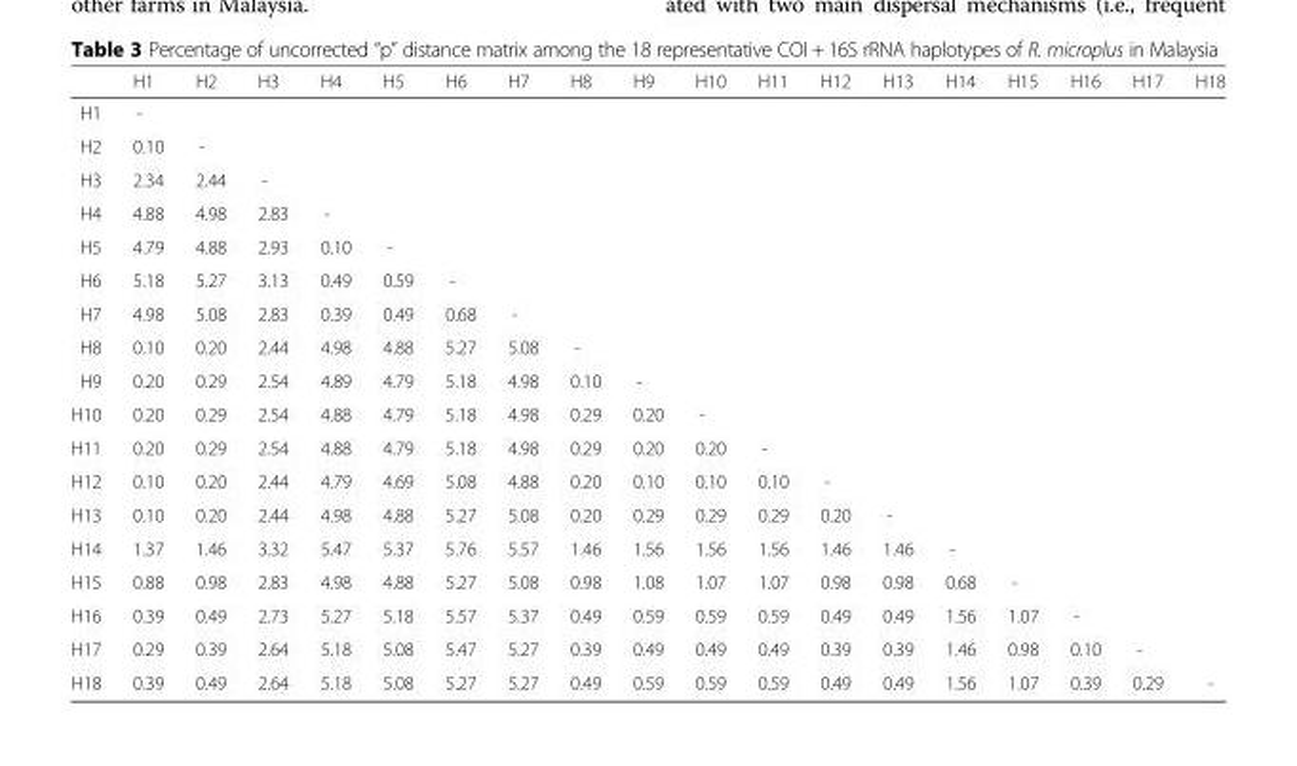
<table><thead><tr><td></td><td>H1</td><td>H2</td><td>H3</td><td>H4</td><td>H5</td><td>H6</td><td>H7</td><td>H8</td><td>H9</td><td>H10</td><td>H11</td><td>H12</td><td>H13</td><td>H14</td><td>H15</td><td>H16</td><td>H17</td><td>H18</td></tr></thead><tbody><tr><td>H1</td><td>-</td><td></td><td></td><td></td><td></td><td></td><td></td><td></td><td></td><td></td><td></td><td></td><td></td><td></td><td></td><td></td><td></td><td></td></tr><tr><td>H2</td><td>0.10</td><td>-</td><td></td><td></td><td></td><td></td><td></td><td></td><td></td><td></td><td></td><td></td><td></td><td></td><td></td><td></td><td></td><td></td></tr><tr><td>H3</td><td>2.34</td><td>2.44</td><td>-</td><td></td><td></td><td></td><td></td><td></td><td></td><td></td><td></td><td></td><td></td><td></td><td></td><td></td><td></td><td></td></tr><tr><td>H4</td><td>4.88</td><td>4.98</td><td>2.83</td><td>-</td><td></td><td></td><td></td><td></td><td></td><td></td><td></td><td></td><td></td><td></td><td></td><td></td><td></td><td></td></tr><tr><td>H5</td><td>4.79</td><td>4.88</td><td>2.93</td><td>0.10</td><td>-</td><td></td><td></td><td></td><td></td><td></td><td></td><td></td><td></td><td></td><td></td><td></td><td></td><td></td></tr><tr><td>H6</td><td>5.18</td><td>5.27</td><td>3.13</td><td>0.49</td><td>0.59</td><td>-</td><td></td><td></td><td></td><td></td><td></td><td></td><td></td><td></td><td></td><td></td><td></td><td></td></tr><tr><td>H7</td><td>4.98</td><td>5.08</td><td>2.83</td><td>0.39</td><td>0.49</td><td>0.68</td><td>-</td><td></td><td></td><td></td><td></td><td></td><td></td><td></td><td></td><td></td><td></td><td></td></tr><tr><td>H8</td><td>0.10</td><td>0.20</td><td>2.44</td><td>4.98</td><td>4.88</td><td>5.27</td><td>5.08</td><td>-</td><td></td><td></td><td></td><td></td><td></td><td></td><td></td><td></td><td></td><td></td></tr><tr><td>H9</td><td>0.20</td><td>0.29</td><td>2.54</td><td>4.89</td><td>4.79</td><td>5.18</td><td>4.98</td><td>0.10</td><td>-</td><td></td><td></td><td></td><td></td><td></td><td></td><td></td><td></td><td></td></tr><tr><td>H10</td><td>0.20</td><td>0.29</td><td>2.54</td><td>4.88</td><td>4.79</td><td>5.18</td><td>4.98</td><td>0.29</td><td>0.20</td><td>-</td><td></td><td></td><td></td><td></td><td></td><td></td><td></td><td></td></tr><tr><td>H11</td><td>0.20</td><td>0.29</td><td>2.54</td><td>4.88</td><td>4.79</td><td>5.18</td><td>4.98</td><td>0.29</td><td>0.20</td><td>0.20</td><td>-</td><td></td><td></td><td></td><td></td><td></td><td></td><td></td></tr><tr><td>H12</td><td>0.10</td><td>0.20</td><td>2.44</td><td>4.79</td><td>4.69</td><td>5.08</td><td>4.88</td><td>0.20</td><td>0.10</td><td>0.10</td><td>0.10</td><td>-</td><td></td><td></td><td></td><td></td><td></td><td></td></tr><tr><td>H13</td><td>0.10</td><td>0.20</td><td>2.44</td><td>4.98</td><td>4.88</td><td>5.27</td><td>5.08</td><td>0.20</td><td>0.29</td><td>0.29</td><td>0.29</td><td>0.20</td><td>-</td><td></td><td></td><td></td><td></td><td></td></tr><tr><td>H14</td><td>1.37</td><td>1.46</td><td>3.32</td><td>5.47</td><td>5.37</td><td>5.76</td><td>5.57</td><td>1.46</td><td>1.56</td><td>1.56</td><td>1.56</td><td>1.46</td><td>1.46</td><td>-</td><td></td><td></td><td></td><td></td></tr><tr><td>H15</td><td>0.88</td><td>0.98</td><td>2.83</td><td>4.98</td><td>4.88</td><td>5.27</td><td>5.08</td><td>0.98</td><td>1.08</td><td>1.07</td><td>1.07</td><td>0.98</td><td>0.98</td><td>0.68</td><td>-</td><td></td><td></td><td></td></tr><tr><td>H16</td><td>0.39</td><td>0.49</td><td>2.73</td><td>5.27</td><td>5.18</td><td>5.57</td><td>5.37</td><td>0.49</td><td>0.59</td><td>0.59</td><td>0.59</td><td>0.49</td><td>0.49</td><td>1.56</td><td>1.07</td><td>-</td><td></td><td></td></tr><tr><td>H17</td><td>0.29</td><td>0.39</td><td>2.64</td><td>5.18</td><td>5.08</td><td>5.47</td><td>5.27</td><td>0.39</td><td>0.49</td><td>0.49</td><td>0.49</td><td>0.39</td><td>0.39</td><td>1.46</td><td>0.98</td><td>0.10</td><td>-</td><td></td></tr><tr><td>H18</td><td>0.39</td><td>0.49</td><td>2.64</td><td>5.18</td><td>5.08</td><td>5.27</td><td>5.27</td><td>0.49</td><td>0.59</td><td>0.59</td><td>0.59</td><td>0.49</td><td>0.49</td><td>1.56</td><td>1.07</td><td>0.39</td><td>0.29</td><td>-</td></tr></tbody></table>